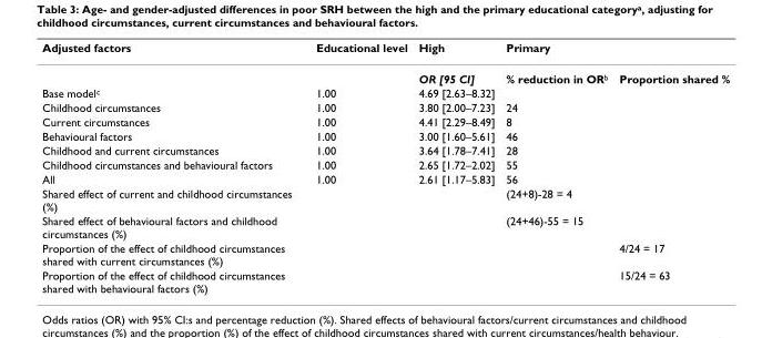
<table><thead><tr><td>Adjusted factors</td><td>Educational level</td><td>High</td><td>Primary</td><td></td></tr></thead><tbody><tr><td></td><td></td><td>OR [95 CI]</td><td>% reduction in OR<sup>b</sup></td><td>Proportion shared %</td></tr><tr><td>Base model<sup>c</sup></td><td>1.00</td><td>4.69 [2.63–8.32]</td><td></td><td></td></tr><tr><td>Childhood circumstances</td><td>1.00</td><td>3.80 [2.00–7.23]</td><td>24</td><td></td></tr><tr><td>Current circumstances</td><td>1.00</td><td>4.41 [2.29–8.49]</td><td>8</td><td></td></tr><tr><td>Behavioural factors</td><td>1.00</td><td>3.00 [1.60–5.61]</td><td>46</td><td></td></tr><tr><td>Childhood and current circumstances</td><td>1.00</td><td>3.64 [1.78–7.41]</td><td>28</td><td></td></tr><tr><td>Childhood circumstances and behavioural factors</td><td>1.00</td><td>2.65 [1.72–2.02]</td><td>55</td><td></td></tr><tr><td>All</td><td>1.00</td><td>2.61 [1.17–5.83]</td><td>56</td><td></td></tr><tr><td>Shared effect of current and childhood circumstances (%)</td><td></td><td></td><td>(24+8)-28 = 4</td><td></td></tr><tr><td>Shared effect of behavioural factors and childhood circumstances (%)</td><td></td><td></td><td>(24+46)-55 = 15</td><td></td></tr><tr><td>Proportion of the effect of childhood circumstances shared with current circumstances (%)</td><td></td><td></td><td></td><td>4/24 = 17</td></tr><tr><td>Proportion of the effect of childhood circumstances shared with behavioural factors (%)</td><td></td><td></td><td></td><td>15/24 = 63</td></tr></tbody></table>